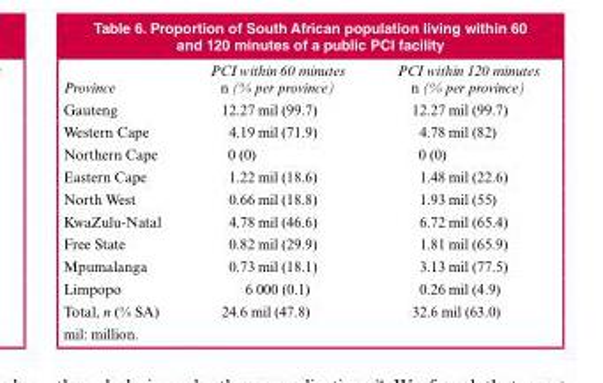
<table><thead><tr><td>Province</td><td>PCI within 60 minutes n (% per province)</td><td>PCI within 120 minutes n (% per province)</td></tr></thead><tbody><tr><td>Gauteng</td><td>12.27 mil (99.7)</td><td>12.27 mil (99.7)</td></tr><tr><td>Western Cape</td><td>4.19 mil (71.9)</td><td>4.78 mil (82)</td></tr><tr><td>Northern Cape</td><td>0 (0)</td><td>0 (0)</td></tr><tr><td>Eastern Cape</td><td>1.22 mil (18.6)</td><td>1.48 mil (22.6)</td></tr><tr><td>North West</td><td>0.66 mil (18.8)</td><td>1.93 mil (55)</td></tr><tr><td>KwaZulu-Natal</td><td>4.78 mil (46.6)</td><td>6.72 mil (65.4)</td></tr><tr><td>Free State</td><td>0.82 mil (29.9)</td><td>1.81 mil (65.9)</td></tr><tr><td>Mpumalanga</td><td>0.73 mil (18.1)</td><td>3.13 mil (77.5)</td></tr><tr><td>Limpopo</td><td>6 000 (0.1)</td><td>0.26 mil (4.9)</td></tr><tr><td>Total, n (% SA)</td><td>24.6 mil (47.8)</td><td>32.6 mil (63.0)</td></tr></tbody></table>